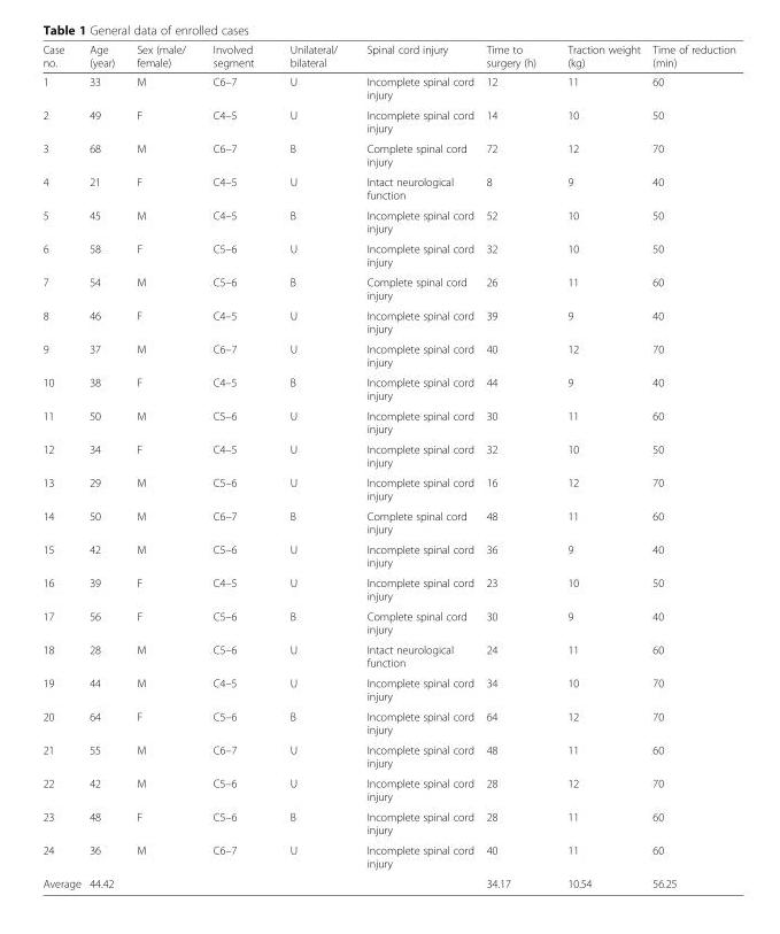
<table><thead><tr><td>Case no.</td><td>Age (year)</td><td>Sex (male/ female)</td><td>Involved segment</td><td>Unilateral/ bilateral</td><td>Spinal cord injury</td><td>Time to surgery (h)</td><td>Traction weight (kg)</td><td>Time of reduction (min)</td></tr></thead><tbody><tr><td>1</td><td>33</td><td>M</td><td>C6–7</td><td>U</td><td>Incomplete spinal cord injury</td><td>12</td><td>11</td><td>60</td></tr><tr><td>2</td><td>49</td><td>F</td><td>C4–5</td><td>U</td><td>Incomplete spinal cord injury</td><td>14</td><td>10</td><td>50</td></tr><tr><td>3</td><td>68</td><td>M</td><td>C6–7</td><td>B</td><td>Complete spinal cord injury</td><td>72</td><td>12</td><td>70</td></tr><tr><td>4</td><td>21</td><td>F</td><td>C4–5</td><td>U</td><td>Intact neurological function</td><td>8</td><td>9</td><td>40</td></tr><tr><td>5</td><td>45</td><td>M</td><td>C4–5</td><td>B</td><td>Incomplete spinal cord injury</td><td>52</td><td>10</td><td>50</td></tr><tr><td>6</td><td>58</td><td>F</td><td>C5–6</td><td>U</td><td>Incomplete spinal cord injury</td><td>32</td><td>10</td><td>50</td></tr><tr><td>7</td><td>54</td><td>M</td><td>C5–6</td><td>B</td><td>Complete spinal cord injury</td><td>26</td><td>11</td><td>60</td></tr><tr><td>8</td><td>46</td><td>F</td><td>C4–5</td><td>U</td><td>Incomplete spinal cord injury</td><td>39</td><td>9</td><td>40</td></tr><tr><td>9</td><td>37</td><td>M</td><td>C6–7</td><td>U</td><td>Incomplete spinal cord injury</td><td>40</td><td>12</td><td>70</td></tr><tr><td>10</td><td>38</td><td>F</td><td>C4–5</td><td>B</td><td>Incomplete spinal cord injury</td><td>44</td><td>9</td><td>40</td></tr><tr><td>11</td><td>50</td><td>M</td><td>C5–6</td><td>U</td><td>Incomplete spinal cord injury</td><td>30</td><td>11</td><td>60</td></tr><tr><td>12</td><td>34</td><td>F</td><td>C4–5</td><td>U</td><td>Incomplete spinal cord injury</td><td>32</td><td>10</td><td>50</td></tr><tr><td>13</td><td>29</td><td>M</td><td>C5–6</td><td>U</td><td>Incomplete spinal cord injury</td><td>16</td><td>12</td><td>70</td></tr><tr><td>14</td><td>50</td><td>M</td><td>C6–7</td><td>B</td><td>Complete spinal cord injury</td><td>48</td><td>11</td><td>60</td></tr><tr><td>15</td><td>42</td><td>M</td><td>C5–6</td><td>U</td><td>Incomplete spinal cord injury</td><td>36</td><td>9</td><td>40</td></tr><tr><td>16</td><td>39</td><td>F</td><td>C4–5</td><td>U</td><td>Incomplete spinal cord injury</td><td>23</td><td>10</td><td>50</td></tr><tr><td>17</td><td>56</td><td>F</td><td>C5–6</td><td>B</td><td>Complete spinal cord injury</td><td>30</td><td>9</td><td>40</td></tr><tr><td>18</td><td>28</td><td>M</td><td>C5–6</td><td>U</td><td>Intact neurological function</td><td>24</td><td>11</td><td>60</td></tr><tr><td>19</td><td>44</td><td>M</td><td>C4–5</td><td>U</td><td>Incomplete spinal cord injury</td><td>34</td><td>10</td><td>70</td></tr><tr><td>20</td><td>64</td><td>F</td><td>C5–6</td><td>B</td><td>Incomplete spinal cord injury</td><td>64</td><td>12</td><td>70</td></tr><tr><td>21</td><td>55</td><td>M</td><td>C6–7</td><td>U</td><td>Incomplete spinal cord injury</td><td>48</td><td>11</td><td>60</td></tr><tr><td>22</td><td>42</td><td>M</td><td>C5–6</td><td>U</td><td>Incomplete spinal cord injury</td><td>28</td><td>12</td><td>70</td></tr><tr><td>23</td><td>48</td><td>F</td><td>C5–6</td><td>B</td><td>Incomplete spinal cord injury</td><td>28</td><td>11</td><td>60</td></tr><tr><td>24</td><td>36</td><td>M</td><td>C6–7</td><td>U</td><td>Incomplete spinal cord injury</td><td>40</td><td>11</td><td>60</td></tr><tr><td>Average</td><td>44.42</td><td></td><td></td><td></td><td></td><td>34.17</td><td>10.54</td><td>56.25</td></tr></tbody></table>